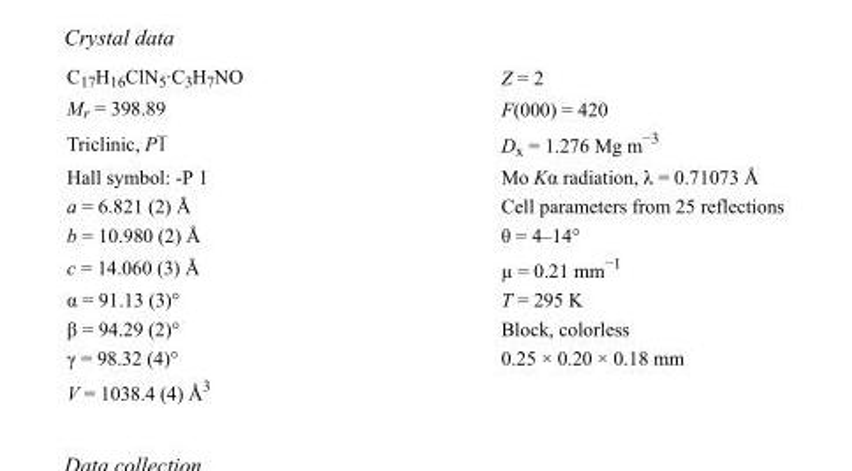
<table><tbody><tr><td>C<sub>17</sub>H<sub>16</sub>ClN<sub>5</sub>·C<sub>3</sub>H<sub>7</sub>NO</td><td>Z = 2</td></tr><tr><td>M<sub>r</sub> = 398.89</td><td>F(000) = 420</td></tr><tr><td>Triclinic, P1</td><td>D<sub>x</sub> = 1.276 Mg m<sup>−3</sup></td></tr><tr><td>Hall symbol: -P 1</td><td>Mo Kα radiation, λ = 0.71073 Å</td></tr><tr><td>a = 6.821 (2) Å</td><td>Cell parameters from 25 reflections</td></tr><tr><td>b = 10.980 (2) Å</td><td>θ = 4–14°</td></tr><tr><td>c = 14.060 (3) Å</td><td>µ = 0.21 mm<sup>−1</sup></td></tr><tr><td>α = 91.13 (3)°</td><td>T = 295 K</td></tr><tr><td>β = 94.29 (2)°</td><td>Block, colorless</td></tr><tr><td>γ = 98.32 (4)°</td><td>0.25 × 0.20 × 0.18 mm</td></tr><tr><td>V = 1038.4 (4) Å<sup>3</sup></td><td></td></tr></tbody></table>